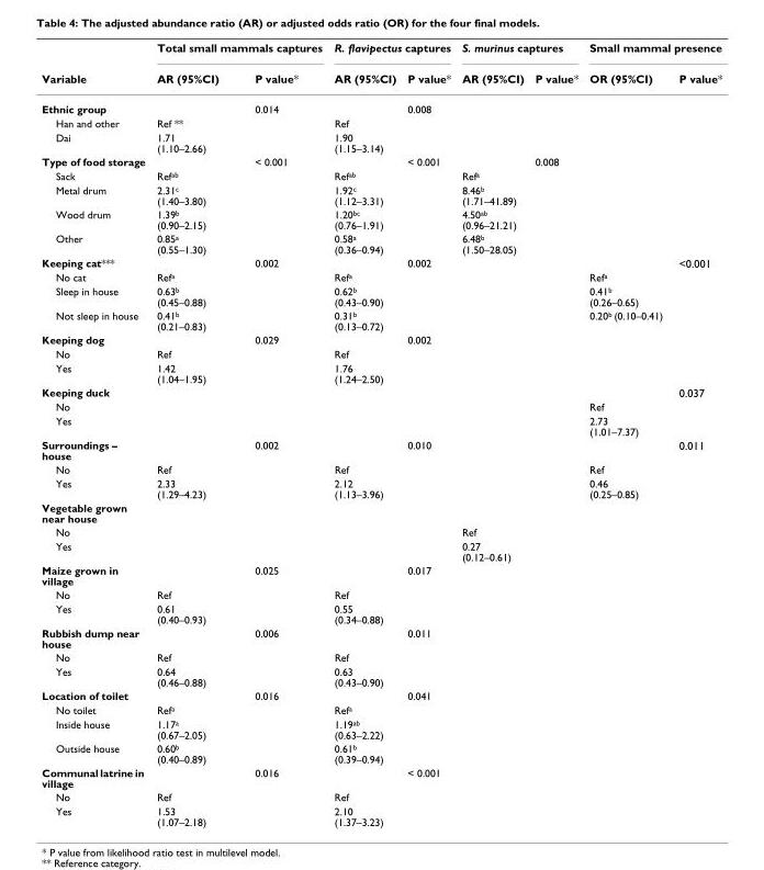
<table><thead><tr><td rowspan="2">Variable</td><td colspan="2">Total small mammals captures</td><td colspan="2">R. flavipectus captures</td><td colspan="2">S. murinus captures</td><td colspan="2">Small mammal presence</td></tr><tr><td>AR (95%CI)</td><td>P value*</td><td>AR (95%CI)</td><td>P value*</td><td>AR (95%CI)</td><td>P value*</td><td>OR (95%CI)</td><td>P value*</td></tr></thead><tbody><tr><td>Ethnic group</td><td></td><td>0.014</td><td></td><td>0.008</td><td></td><td></td><td></td><td></td></tr><tr><td>Han and other</td><td>Ref **</td><td></td><td>Ref</td><td></td><td></td><td></td><td></td><td></td></tr><tr><td>Dai</td><td>1.71 (1.10–2.66)</td><td></td><td>1.90 (1.15–3.14)</td><td></td><td></td><td></td><td></td><td></td></tr><tr><td>Type of food storage</td><td></td><td>&lt; 0.001</td><td></td><td>&lt; 0.001</td><td></td><td>0.008</td><td></td><td></td></tr><tr><td>Sack</td><td>Ref<sup>ab</sup></td><td></td><td>Ref<sup>ab</sup></td><td></td><td>Ref<sup>a</sup></td><td></td><td></td><td></td></tr><tr><td>Metal drum</td><td>2.31<sup>c</sup> (1.40–3.80)</td><td></td><td>1.92<sup>c</sup> (1.12–3.31)</td><td></td><td>8.46<sup>b</sup> (1.71–41.89)</td><td></td><td></td><td></td></tr><tr><td>Wood drum</td><td>1.39<sup>b</sup> (0.90–2.15)</td><td></td><td>1.20<sup>bc</sup> (0.76–1.91)</td><td></td><td>4.50<sup>ab</sup> (0.96–21.21)</td><td></td><td></td><td></td></tr><tr><td>Other</td><td>0.85<sup>a</sup> (0.55–1.30)</td><td></td><td>0.58<sup>a</sup> (0.36–0.94)</td><td></td><td>6.48<sup>b</sup> (1.50–28.05)</td><td></td><td></td><td></td></tr><tr><td>Keeping cat***</td><td></td><td>0.002</td><td></td><td>0.002</td><td></td><td></td><td></td><td>&lt;0.001</td></tr><tr><td>No cat</td><td>Ref<sup>a</sup></td><td></td><td>Ref<sup>a</sup></td><td></td><td></td><td></td><td>Ref<sup>a</sup></td><td></td></tr><tr><td>Sleep in house</td><td>0.63<sup>b</sup> (0.45–0.88)</td><td></td><td>0.62<sup>b</sup> (0.43–0.90)</td><td></td><td></td><td></td><td>0.41<sup>b</sup> (0.26–0.65)</td><td></td></tr><tr><td>Not sleep in house</td><td>0.41<sup>b</sup> (0.21–0.83)</td><td></td><td>0.31<sup>b</sup> (0.13–0.72)</td><td></td><td></td><td></td><td>0.20<sup>b</sup> (0.10–0.41)</td><td></td></tr><tr><td>Keeping dog</td><td></td><td>0.029</td><td></td><td>0.002</td><td></td><td></td><td></td><td></td></tr><tr><td>No</td><td>Ref</td><td></td><td>Ref</td><td></td><td></td><td></td><td></td><td></td></tr><tr><td>Yes</td><td>1.42 (1.04–1.95)</td><td></td><td>1.76 (1.24–2.50)</td><td></td><td></td><td></td><td></td><td></td></tr><tr><td>Keeping duck</td><td></td><td></td><td></td><td></td><td></td><td></td><td></td><td>0.037</td></tr><tr><td>No</td><td></td><td></td><td></td><td></td><td></td><td></td><td>Ref</td><td></td></tr><tr><td>Yes</td><td></td><td></td><td></td><td></td><td></td><td></td><td>2.73 (1.01–7.37)</td><td></td></tr><tr><td>Surroundings – house</td><td></td><td>0.002</td><td></td><td>0.010</td><td></td><td></td><td></td><td>0.011</td></tr><tr><td>No</td><td>Ref</td><td></td><td>Ref</td><td></td><td></td><td></td><td>Ref</td><td></td></tr><tr><td>Yes</td><td>2.33 (1.29–4.23)</td><td></td><td>2.12 (1.13–3.96)</td><td></td><td></td><td></td><td>0.46 (0.25–0.85)</td><td></td></tr><tr><td colspan="9">Vegetable grown near house</td></tr><tr><td>No</td><td></td><td></td><td></td><td></td><td>Ref</td><td></td><td></td><td></td></tr><tr><td>Yes</td><td></td><td></td><td></td><td></td><td>0.27 (0.12–0.61)</td><td></td><td></td><td></td></tr><tr><td>Maize grown in village</td><td></td><td>0.025</td><td></td><td>0.017</td><td></td><td></td><td></td><td></td></tr><tr><td>No</td><td>Ref</td><td></td><td>Ref</td><td></td><td></td><td></td><td></td><td></td></tr><tr><td>Yes</td><td>0.61 (0.40–0.93)</td><td></td><td>0.55 (0.34–0.88)</td><td></td><td></td><td></td><td></td><td></td></tr><tr><td>Rubbish dump near house</td><td></td><td>0.006</td><td></td><td>0.011</td><td></td><td></td><td></td><td></td></tr><tr><td>No</td><td>Ref</td><td></td><td>Ref</td><td></td><td></td><td></td><td></td><td></td></tr><tr><td>Yes</td><td>0.64 (0.46–0.88)</td><td></td><td>0.63 (0.43–0.90)</td><td></td><td></td><td></td><td></td><td></td></tr><tr><td>Location of toilet</td><td></td><td>0.016</td><td></td><td>0.041</td><td></td><td></td><td></td><td></td></tr><tr><td>No toilet</td><td>Ref<sup>a</sup></td><td></td><td>Ref<sup>a</sup></td><td></td><td></td><td></td><td></td><td></td></tr><tr><td>Inside house</td><td>1.17<sup>a</sup> (0.67–2.05)</td><td></td><td>1.19<sup>ab</sup> (0.63–2.22)</td><td></td><td></td><td></td><td></td><td></td></tr><tr><td>Outside house</td><td>0.60<sup>b</sup> (0.40–0.89)</td><td></td><td>0.61<sup>b</sup> (0.39–0.94)</td><td></td><td></td><td></td><td></td><td></td></tr><tr><td>Communal latrine in village</td><td></td><td>0.016</td><td></td><td>&lt; 0.001</td><td></td><td></td><td></td><td></td></tr><tr><td>No</td><td>Ref</td><td></td><td>Ref</td><td></td><td></td><td></td><td></td><td></td></tr><tr><td>Yes</td><td>1.53 (1.07–2.18)</td><td></td><td>2.10 (1.37–3.23)</td><td></td><td></td><td></td><td></td><td></td></tr></tbody></table>